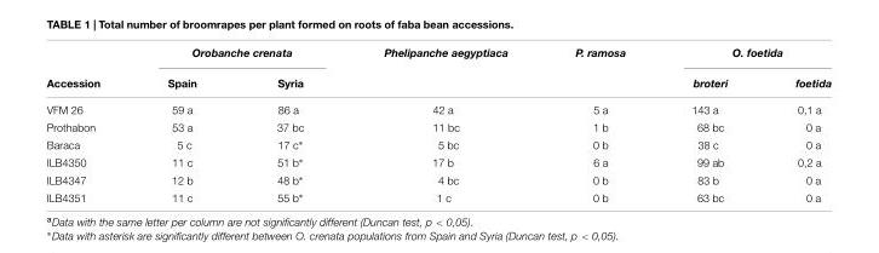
<table><thead><tr><td rowspan="2">Accession</td><td colspan="2">Orobanche crenata</td><td rowspan="2">Phelipanche aegyptiaca</td><td rowspan="2">P. ramosa</td><td colspan="2">O. foetida</td></tr><tr><td>Spain</td><td>Syria</td><td>broteri</td><td>foetida</td></tr></thead><tbody><tr><td>VFM 26</td><td>59 a</td><td>86 a</td><td>42 a</td><td>5 a</td><td>143 a</td><td>0,1 a</td></tr><tr><td>Prothabon</td><td>53 a</td><td>37 bc</td><td>11 bc</td><td>1 b</td><td>68 bc</td><td>0 a</td></tr><tr><td>Baraca</td><td>5 c</td><td>17 c∗</td><td>5 bc</td><td>0 b</td><td>38 c</td><td>0 a</td></tr><tr><td>ILB4350</td><td>11 c</td><td>51 b∗</td><td>17 b</td><td>6 a</td><td>99 ab</td><td>0,2 a</td></tr><tr><td>ILB4347</td><td>12 b</td><td>48 b∗</td><td>4 bc</td><td>0 b</td><td>83 b</td><td>0 a</td></tr><tr><td>ILB4351</td><td>11 c</td><td>55 b∗</td><td>1 c</td><td>0 b</td><td>63 bc</td><td>0 a</td></tr></tbody></table>